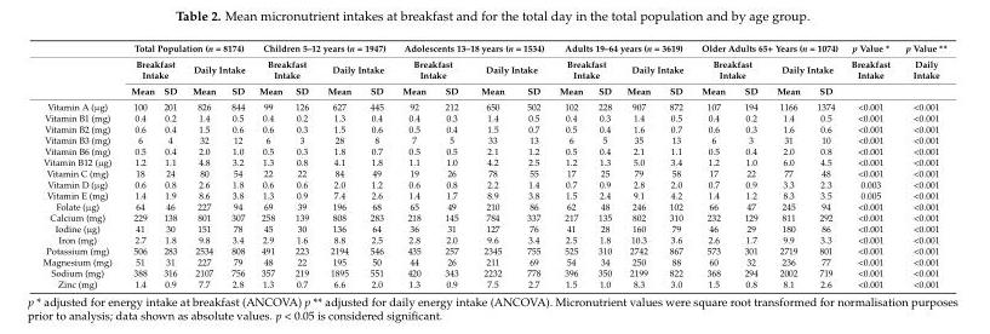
<table><thead><tr><td rowspan="3"></td><td colspan="4">Total Population (n = 8174)</td><td colspan="4">Children 5–12 years (n = 1947)</td><td colspan="4">Adolescents 13–18 years (n = 1534)</td><td colspan="4">Adults 19–64 years (n = 3619)</td><td colspan="4">Older Adults 65+ Years (n = 1074)</td><td rowspan="3">p Value * Breakfast Intake</td><td rowspan="3">p Value ** Daily Intake</td></tr><tr><td colspan="2">Breakfast Intake</td><td colspan="2">Daily Intake</td><td colspan="2">Breakfast Intake</td><td colspan="2">Daily Intake</td><td colspan="2">Breakfast Intake</td><td colspan="2">Daily Intake</td><td colspan="2">Breakfast Intake</td><td colspan="2">Daily Intake</td><td colspan="2">Breakfast Intake</td><td colspan="2">Daily Intake</td></tr><tr><td>Mean</td><td>SD</td><td>Mean</td><td>SD</td><td>Mean</td><td>SD</td><td>Mean</td><td>SD</td><td>Mean</td><td>SD</td><td>Mean</td><td>SD</td><td>Mean</td><td>SD</td><td>Mean</td><td>SD</td><td>Mean</td><td>SD</td><td>Mean</td><td>SD</td></tr></thead><tbody><tr><td>Vitamin A (µg)</td><td>100</td><td>201</td><td>826</td><td>844</td><td>99</td><td>126</td><td>627</td><td>445</td><td>92</td><td>212</td><td>650</td><td>502</td><td>102</td><td>228</td><td>907</td><td>872</td><td>107</td><td>194</td><td>1166</td><td>1374</td><td>&lt;0.001</td><td>&lt;0.001</td></tr><tr><td>Vitamin B1 (mg)</td><td>0.4</td><td>0.2</td><td>1.4</td><td>0.5</td><td>0.4</td><td>0.2</td><td>1.3</td><td>0.4</td><td>0.4</td><td>0.3</td><td>1.4</td><td>0.5</td><td>0.4</td><td>0.3</td><td>1.4</td><td>0.5</td><td>0.4</td><td>0.2</td><td>1.4</td><td>0.5</td><td>&lt;0.001</td><td>&lt;0.001</td></tr><tr><td>Vitamin B2 (mg)</td><td>0.6</td><td>0.4</td><td>1.5</td><td>0.6</td><td>0.6</td><td>0.3</td><td>1.5</td><td>0.6</td><td>0.5</td><td>0.4</td><td>1.5</td><td>0.7</td><td>0.5</td><td>0.4</td><td>1.6</td><td>0.7</td><td>0.6</td><td>0.3</td><td>1.6</td><td>0.6</td><td>&lt;0.001</td><td>&lt;0.001</td></tr><tr><td>Vitamin B3 (mg)</td><td>6</td><td>4</td><td>32</td><td>12</td><td>6</td><td>3</td><td>28</td><td>8</td><td>7</td><td>5</td><td>33</td><td>13</td><td>6</td><td>5</td><td>35</td><td>13</td><td>6</td><td>3</td><td>31</td><td>10</td><td>&lt;0.001</td><td>&lt;0.001</td></tr><tr><td>Vitamin B6 (mg)</td><td>0.5</td><td>0.4</td><td>2.0</td><td>1.0</td><td>0.5</td><td>0.3</td><td>1.8</td><td>0.7</td><td>0.5</td><td>0.5</td><td>2.1</td><td>1.2</td><td>0.5</td><td>0.4</td><td>2.1</td><td>1.1</td><td>0.5</td><td>0.4</td><td>2.0</td><td>0.8</td><td>&lt;0.001</td><td>&lt;0.001</td></tr><tr><td>Vitamin B12 (µg)</td><td>1.2</td><td>1.1</td><td>4.8</td><td>3.2</td><td>1.3</td><td>0.8</td><td>4.1</td><td>1.8</td><td>1.1</td><td>1.0</td><td>4.2</td><td>2.5</td><td>1.2</td><td>1.3</td><td>5.0</td><td>3.4</td><td>1.2</td><td>1.0</td><td>6.0</td><td>4.5</td><td>&lt;0.001</td><td>&lt;0.001</td></tr><tr><td>Vitamin C (mg)</td><td>18</td><td>24</td><td>80</td><td>54</td><td>22</td><td>22</td><td>84</td><td>49</td><td>19</td><td>26</td><td>78</td><td>55</td><td>17</td><td>25</td><td>79</td><td>58</td><td>17</td><td>22</td><td>77</td><td>48</td><td>&lt;0.001</td><td>&lt;0.001</td></tr><tr><td>Vitamin D (µg)</td><td>0.6</td><td>0.8</td><td>2.6</td><td>1.8</td><td>0.6</td><td>0.6</td><td>2.0</td><td>1.2</td><td>0.6</td><td>0.8</td><td>2.2</td><td>1.4</td><td>0.7</td><td>0.9</td><td>2.8</td><td>2.0</td><td>0.7</td><td>0.9</td><td>3.3</td><td>2.3</td><td>0.003</td><td>&lt;0.001</td></tr><tr><td>Vitamin E (mg)</td><td>1.4</td><td>1.9</td><td>8.6</td><td>3.8</td><td>1.3</td><td>0.9</td><td>7.4</td><td>2.6</td><td>1.4</td><td>1.7</td><td>8.9</td><td>3.8</td><td>1.5</td><td>2.4</td><td>9.1</td><td>4.2</td><td>1.4</td><td>1.2</td><td>8.3</td><td>3.5</td><td>0.005</td><td>&lt;0.001</td></tr><tr><td>Folate (µg)</td><td>64</td><td>46</td><td>227</td><td>94</td><td>69</td><td>39</td><td>196</td><td>68</td><td>65</td><td>49</td><td>210</td><td>86</td><td>62</td><td>48</td><td>246</td><td>102</td><td>66</td><td>47</td><td>245</td><td>94</td><td>&lt;0.001</td><td>&lt;0.001</td></tr><tr><td>Calcium (mg)</td><td>229</td><td>138</td><td>801</td><td>307</td><td>258</td><td>139</td><td>808</td><td>283</td><td>218</td><td>145</td><td>784</td><td>337</td><td>217</td><td>135</td><td>802</td><td>310</td><td>232</td><td>129</td><td>811</td><td>292</td><td>&lt;0.001</td><td>&lt;0.001</td></tr><tr><td>Iodine (µg)</td><td>41</td><td>30</td><td>151</td><td>78</td><td>45</td><td>30</td><td>136</td><td>64</td><td>36</td><td>31</td><td>127</td><td>76</td><td>41</td><td>28</td><td>160</td><td>79</td><td>46</td><td>29</td><td>180</td><td>86</td><td>&lt;0.001</td><td>&lt;0.001</td></tr><tr><td>Iron (mg)</td><td>2.7</td><td>1.8</td><td>9.8</td><td>3.4</td><td>2.9</td><td>1.6</td><td>8.8</td><td>2.5</td><td>2.8</td><td>2.0</td><td>9.6</td><td>3.4</td><td>2.5</td><td>1.8</td><td>10.3</td><td>3.6</td><td>2.6</td><td>1.7</td><td>9.9</td><td>3.3</td><td>&lt;0.001</td><td>&lt;0.001</td></tr><tr><td>Potassium (mg)</td><td>506</td><td>283</td><td>2534</td><td>808</td><td>491</td><td>223</td><td>2194</td><td>546</td><td>435</td><td>257</td><td>2345</td><td>755</td><td>525</td><td>310</td><td>2742</td><td>867</td><td>573</td><td>301</td><td>2719</td><td>801</td><td>&lt;0.001</td><td>&lt;0.001</td></tr><tr><td>Magnesium (mg)</td><td>51</td><td>31</td><td>227</td><td>79</td><td>48</td><td>22</td><td>195</td><td>50</td><td>44</td><td>26</td><td>211</td><td>69</td><td>54</td><td>34</td><td>250</td><td>88</td><td>60</td><td>32</td><td>236</td><td>77</td><td>&lt;0.001</td><td>&lt;0.001</td></tr><tr><td>Sodium (mg)</td><td>388</td><td>316</td><td>2107</td><td>756</td><td>357</td><td>219</td><td>1895</td><td>551</td><td>420</td><td>343</td><td>2232</td><td>778</td><td>396</td><td>350</td><td>2199</td><td>822</td><td>368</td><td>294</td><td>2002</td><td>719</td><td>&lt;0.001</td><td>&lt;0.001</td></tr><tr><td>Zinc (mg)</td><td>1.4</td><td>0.9</td><td>7.7</td><td>2.8</td><td>1.3</td><td>0.7</td><td>6.6</td><td>2.0</td><td>1.3</td><td>0.9</td><td>7.5</td><td>2.7</td><td>1.5</td><td>1.0</td><td>8.3</td><td>3.0</td><td>1.5</td><td>0.8</td><td>8.1</td><td>2.6</td><td>&lt;0.001</td><td>&lt;0.001</td></tr></tbody></table>